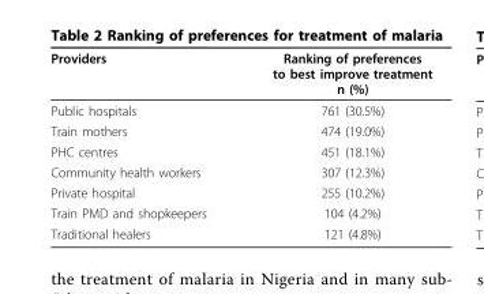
<table><thead><tr><td>Providers</td><td>Ranking of preferences to best improve treatment n (%)</td></tr></thead><tbody><tr><td>Public hospitals</td><td>761 (30.5%)</td></tr><tr><td>Train mothers</td><td>474 (19.0%)</td></tr><tr><td>PHC centres</td><td>451 (18.1%)</td></tr><tr><td>Community health workers</td><td>307 (12.3%)</td></tr><tr><td>Private hospital</td><td>255 (10.2%)</td></tr><tr><td>Train PMD and shopkeepers</td><td>104 (4.2%)</td></tr><tr><td>Traditional healers</td><td>121 (4.8%)</td></tr></tbody></table>